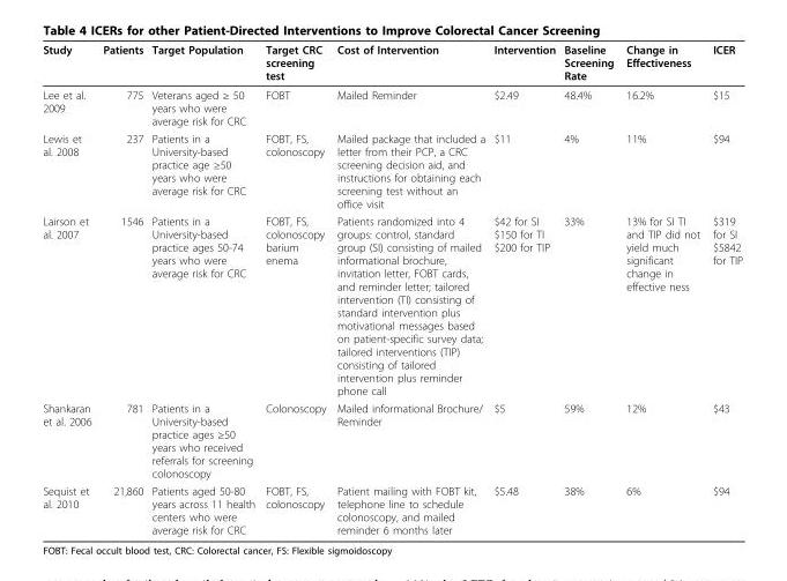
<table><thead><tr><td>Study</td><td>Patients</td><td>Target Population</td><td>Target CRC screening test</td><td>Cost of Intervention</td><td>Intervention</td><td>Baseline Screening Rate</td><td>Change in Effectiveness</td><td>ICER</td></tr></thead><tbody><tr><td>Lee et al. 2009</td><td>775</td><td>Veterans aged ≥ 50 years who were average risk for CRC</td><td>FOBT</td><td>Mailed Reminder</td><td>$2.49</td><td>48.4%</td><td>16.2%</td><td>$15</td></tr><tr><td>Lewis et al. 2008</td><td>237</td><td>Patients in a University-based practice age ≥50 years who were average risk for CRC</td><td>FOBT, FS, colonoscopy</td><td>Mailed package that included a letter from their PCP, a CRC screening decision aid, and instructions for obtaining each screening test without an office visit</td><td>$11</td><td>4%</td><td>11%</td><td>$94</td></tr><tr><td>Lairson et al. 2007</td><td>1546</td><td>Patients in a University-based practice ages 50-74 years who were average risk for CRC</td><td>FOBT, FS, colonoscopy barium enema</td><td>Patients randomized into 4 groups: control, standard group (SI) consisting of mailed informational brochure, invitation letter, FOBT cards, and reminder letter; tailored intervention (TI) consisting of standard intervention plus motivational messages based on patient-specific survey data; tailored interventions (TIP) consisting of tailored intervention plus reminder phone call</td><td>$42 for SI $150 for TI $200 for TIP</td><td>33%</td><td>13% for SI TI and TIP did not yield much significant change in effective ness</td><td>$319 for SI $5842 for TIP</td></tr><tr><td>Shankaran et al. 2006</td><td>781</td><td>Patients in a University-based practice ages ≥50 years who received referrals for screening colonoscopy</td><td>Colonoscopy</td><td>Mailed informational Brochure/ Reminder</td><td>$5</td><td>59%</td><td>12%</td><td>$43</td></tr><tr><td>Sequist et al. 2010</td><td>21,860</td><td>Patients aged 50-80 years across 11 health centers who were average risk for CRC</td><td>FOBT, FS, colonoscopy</td><td>Patient mailing with FOBT kit, telephone line to schedule colonoscopy, and mailed reminder 6 months later</td><td>$5.48</td><td>38%</td><td>6%</td><td>$94</td></tr></tbody></table>